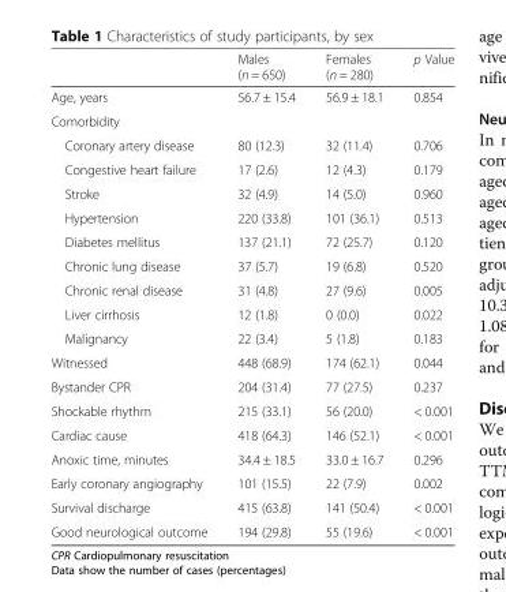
<table><thead><tr><td></td><td>Males (n = 650)</td><td>Females (n = 280)</td><td>p Value</td></tr></thead><tbody><tr><td>Age, years</td><td>56.7 ± 15.4</td><td>56.9 ± 18.1</td><td>0.854</td></tr><tr><td colspan="4">Comorbidity</td></tr><tr><td>Coronary artery disease</td><td>80 (12.3)</td><td>32 (11.4)</td><td>0.706</td></tr><tr><td>Congestive heart failure</td><td>17 (2.6)</td><td>12 (4.3)</td><td>0.179</td></tr><tr><td>Stroke</td><td>32 (4.9)</td><td>14 (5.0)</td><td>0.960</td></tr><tr><td>Hypertension</td><td>220 (33.8)</td><td>101 (36.1)</td><td>0.513</td></tr><tr><td>Diabetes mellitus</td><td>137 (21.1)</td><td>72 (25.7)</td><td>0.120</td></tr><tr><td>Chronic lung disease</td><td>37 (5.7)</td><td>19 (6.8)</td><td>0.520</td></tr><tr><td>Chronic renal disease</td><td>31 (4.8)</td><td>27 (9.6)</td><td>0.005</td></tr><tr><td>Liver cirrhosis</td><td>12 (1.8)</td><td>0 (0.0)</td><td>0.022</td></tr><tr><td>Malignancy</td><td>22 (3.4)</td><td>5 (1.8)</td><td>0.183</td></tr><tr><td>Witnessed</td><td>448 (68.9)</td><td>174 (62.1)</td><td>0.044</td></tr><tr><td>Bystander CPR</td><td>204 (31.4)</td><td>77 (27.5)</td><td>0.237</td></tr><tr><td>Shockable rhythm</td><td>215 (33.1)</td><td>56 (20.0)</td><td>&lt; 0.001</td></tr><tr><td>Cardiac cause</td><td>418 (64.3)</td><td>146 (52.1)</td><td>&lt; 0.001</td></tr><tr><td>Anoxic time, minutes</td><td>34.4 ± 18.5</td><td>33.0 ± 16.7</td><td>0.296</td></tr><tr><td>Early coronary angiography</td><td>101 (15.5)</td><td>22 (7.9)</td><td>0.002</td></tr><tr><td>Survival discharge</td><td>415 (63.8)</td><td>141 (50.4)</td><td>&lt; 0.001</td></tr><tr><td>Good neurological outcome</td><td>194 (29.8)</td><td>55 (19.6)</td><td>&lt; 0.001</td></tr></tbody></table>